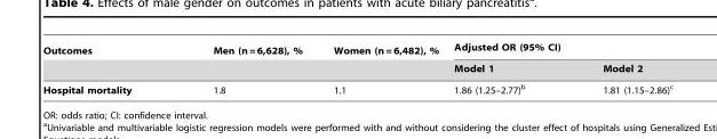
<table><thead><tr><td rowspan="2">Outcomes</td><td rowspan="2">Men (n = 6,628), %</td><td rowspan="2">Women (n = 6,482), %</td><td colspan="2">Adjusted OR (95% CI)</td></tr><tr><td>Model 1</td><td>Model 2</td></tr></thead><tbody><tr><td>Hospital mortality</td><td>1.8</td><td>1.1</td><td>1.86 (1.25–2.77)<sup>b</sup></td><td>1.81 (1.15–2.86)<sup>c</sup></td></tr></tbody></table>